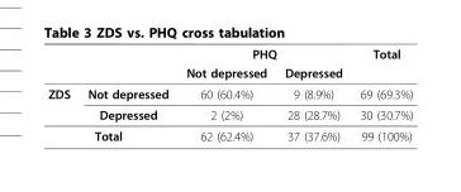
<table><thead><tr><td rowspan="2"></td><td rowspan="2"></td><td colspan="2">PHQ</td><td rowspan="2">Total</td></tr><tr><td>Not depressed</td><td>Depressed</td></tr></thead><tbody><tr><td rowspan="2">ZDS</td><td>Not depressed</td><td>60 (60.4%)</td><td>9 (8.9%)</td><td>69 (69.3%)</td></tr><tr><td>Depressed</td><td>2 (2%)</td><td>28 (28.7%)</td><td>30 (30.7%)</td></tr><tr><td colspan="2">Total</td><td>62 (62.4%)</td><td>37 (37.6%)</td><td>99 (100%)</td></tr></tbody></table>